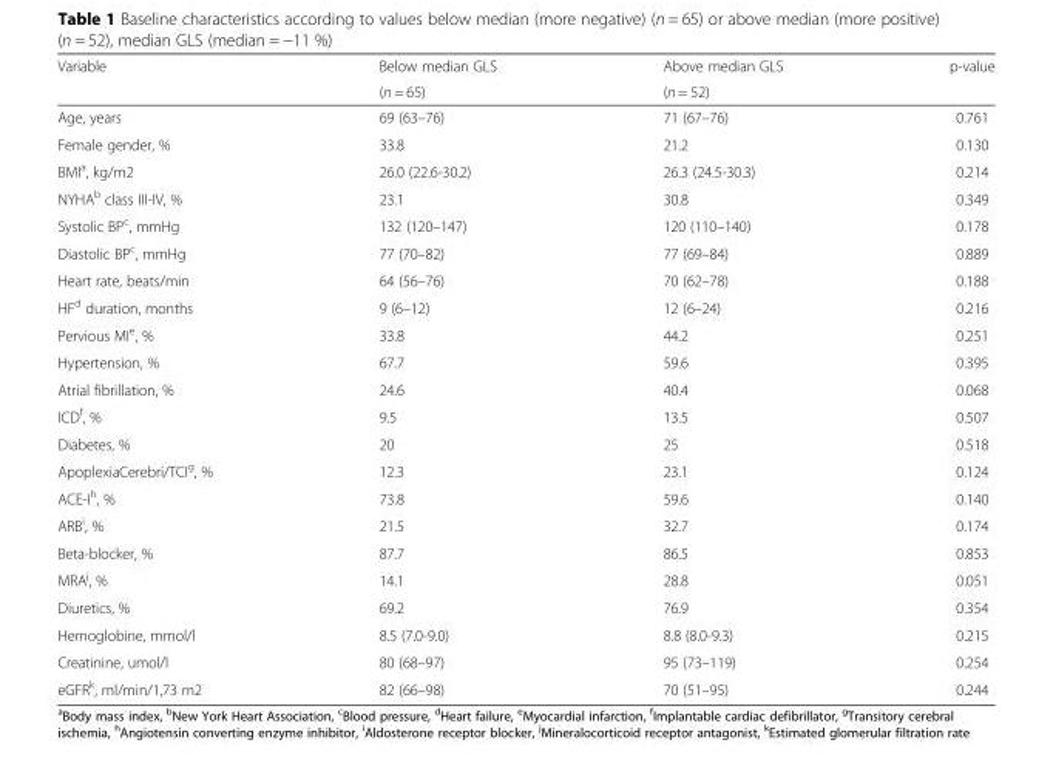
<table><thead><tr><td rowspan="2">Variable</td><td rowspan="2">Below median GLS (n = 65)</td><td rowspan="2">Above median GLS (n = 52)</td><td rowspan="2">p-value</td></tr><tr></tr></thead><tbody><tr><td>Age, years</td><td>69 (63–76)</td><td>71 (67–76)</td><td>0.761</td></tr><tr><td>Female gender, %</td><td>33.8</td><td>21.2</td><td>0.130</td></tr><tr><td>BMI<sup>a</sup>, kg/m2</td><td>26.0 (22.6-30.2)</td><td>26.3 (24.5-30.3)</td><td>0.214</td></tr><tr><td>NYHA<sup>b</sup> class III-IV, %</td><td>23.1</td><td>30.8</td><td>0.349</td></tr><tr><td>Systolic BP<sup>c</sup>, mmHg</td><td>132 (120–147)</td><td>120 (110–140)</td><td>0.178</td></tr><tr><td>Diastolic BP<sup>c</sup>, mmHg</td><td>77 (70–82)</td><td>77 (69–84)</td><td>0.889</td></tr><tr><td>Heart rate, beats/min</td><td>64 (56–76)</td><td>70 (62–78)</td><td>0.188</td></tr><tr><td>HF<sup>d</sup> duration, months</td><td>9 (6–12)</td><td>12 (6–24)</td><td>0.216</td></tr><tr><td>Pervious MI<sup>e</sup>, %</td><td>33.8</td><td>44.2</td><td>0.251</td></tr><tr><td>Hypertension, %</td><td>67.7</td><td>59.6</td><td>0.395</td></tr><tr><td>Atrial fibrillation, %</td><td>24.6</td><td>40.4</td><td>0.068</td></tr><tr><td>ICD<sup>f</sup>, %</td><td>9.5</td><td>13.5</td><td>0.507</td></tr><tr><td>Diabetes, %</td><td>20</td><td>25</td><td>0.518</td></tr><tr><td>ApoplexiaCerebri/TCI<sup>g</sup>, %</td><td>12.3</td><td>23.1</td><td>0.124</td></tr><tr><td>ACE-I<sup>h</sup>, %</td><td>73.8</td><td>59.6</td><td>0.140</td></tr><tr><td>ARB<sup>i</sup>, %</td><td>21.5</td><td>32.7</td><td>0.174</td></tr><tr><td>Beta-blocker, %</td><td>87.7</td><td>86.5</td><td>0.853</td></tr><tr><td>MRA<sup>j</sup>, %</td><td>14.1</td><td>28.8</td><td>0.051</td></tr><tr><td>Diuretics, %</td><td>69.2</td><td>76.9</td><td>0.354</td></tr><tr><td>Hemoglobine, mmol/l</td><td>8.5 (7.0-9.0)</td><td>8.8 (8.0-9.3)</td><td>0.215</td></tr><tr><td>Creatinine, umol/l</td><td>80 (68–97)</td><td>95 (73–119)</td><td>0.254</td></tr><tr><td>eGFR<sup>k</sup>, ml/min/1,73 m2</td><td>82 (66–98)</td><td>70 (51–95)</td><td>0.244</td></tr></tbody></table>